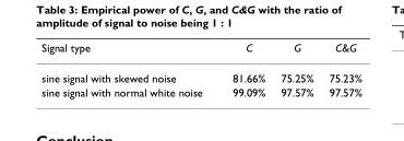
<table><thead><tr><td>Signal type</td><td>C</td><td>G</td><td>C&amp;G</td></tr></thead><tbody><tr><td>sine signal with skewed noise</td><td>81.66%</td><td>75.25%</td><td>75.23%</td></tr><tr><td>sine signal with normal white noise</td><td>99.09%</td><td>97.57%</td><td>97.57%</td></tr></tbody></table>